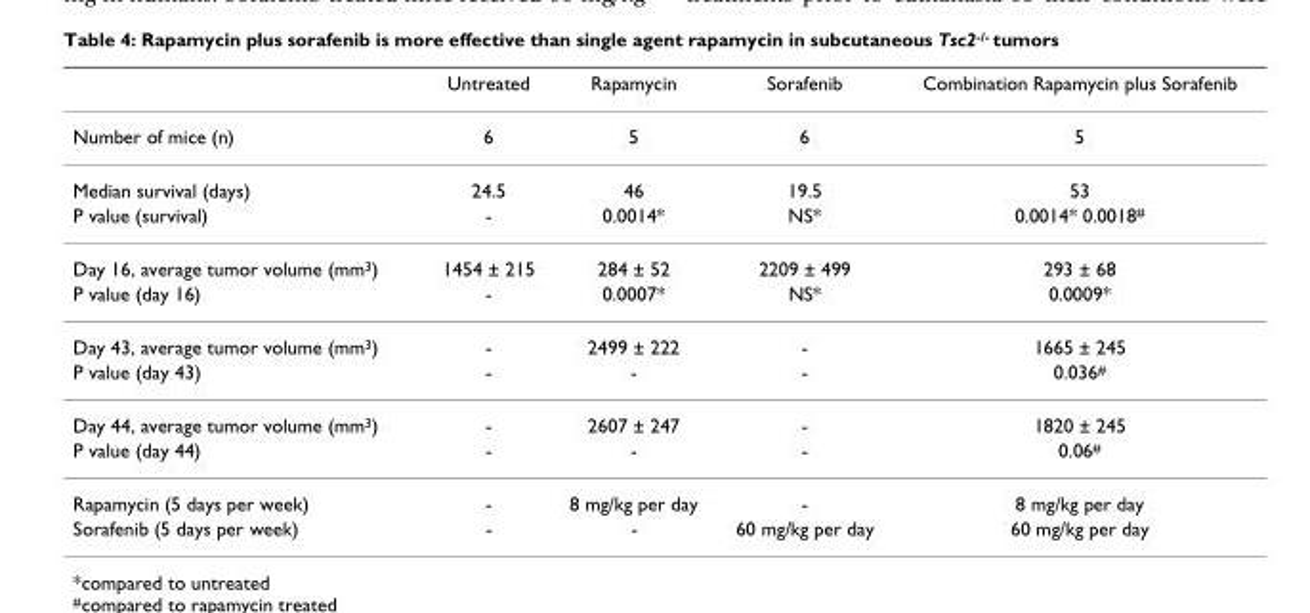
<table><thead><tr><td></td><td>Untreated</td><td>Rapamycin</td><td>Sorafenib</td><td>Combination Rapamycin plus Sorafenib</td></tr></thead><tbody><tr><td>Number of mice (n)</td><td>6</td><td>5</td><td>6</td><td>5</td></tr><tr><td>Median survival (days)</td><td>24.5</td><td>46</td><td>19.5</td><td>53</td></tr><tr><td>P value (survival)</td><td>-</td><td>0.0014*</td><td>NS*</td><td>0.0014* 0.0018#</td></tr><tr><td>Day 16, average tumor volume (mm3)</td><td>1454 ± 215</td><td>284 ± 52</td><td>2209 ± 499</td><td>293 ± 68</td></tr><tr><td>P value (day 16)</td><td>-</td><td>0.0007*</td><td>NS*</td><td>0.0009*</td></tr><tr><td>Day 43, average tumor volume (mm3)</td><td>-</td><td>2499 ± 222</td><td>-</td><td>1665 ± 245</td></tr><tr><td>P value (day 43)</td><td>-</td><td>-</td><td>-</td><td>0.036#</td></tr><tr><td>Day 44, average tumor volume (mm3)</td><td>-</td><td>2607 ± 247</td><td>-</td><td>1820 ± 245</td></tr><tr><td>P value (day 44)</td><td>-</td><td>-</td><td>-</td><td>0.06#</td></tr><tr><td>Rapamycin (5 days per week)</td><td>-</td><td>8 mg/kg per day</td><td>-</td><td>8 mg/kg per day</td></tr><tr><td>Sorafenib (5 days per week)</td><td>-</td><td>-</td><td>60 mg/kg per day</td><td>60 mg/kg per day</td></tr></tbody></table>